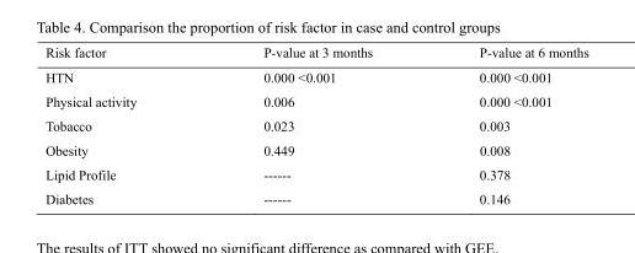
<table><thead><tr><td>Risk factor</td><td>P-value at 3 months</td><td>P-value at 6 months</td></tr></thead><tbody><tr><td>HTN</td><td>0.000 &lt;0.001</td><td>0.000 &lt;0.001</td></tr><tr><td>Physical activity</td><td>0.006</td><td>0.000 &lt;0.001</td></tr><tr><td>Tobacco</td><td>0.023</td><td>0.003</td></tr><tr><td>Obesity</td><td>0.449</td><td>0.008</td></tr><tr><td>Lipid Profile</td><td>------</td><td>0.378</td></tr><tr><td>Diabetes</td><td>------</td><td>0.146</td></tr></tbody></table>